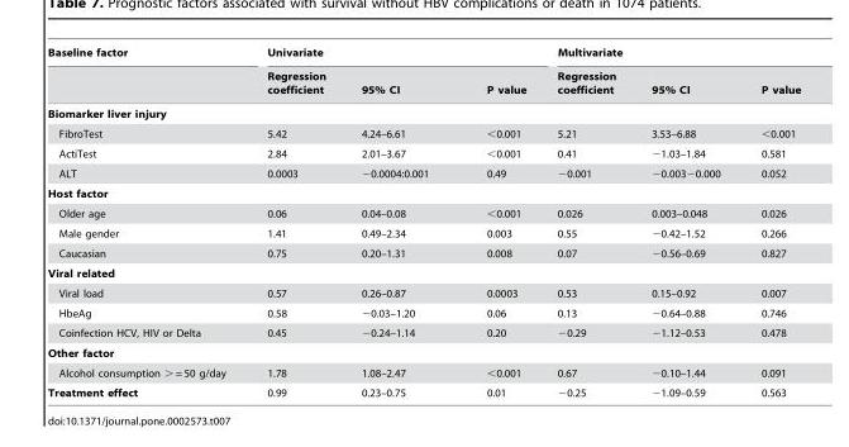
<table><thead><tr><td rowspan="2">Baseline factor</td><td colspan="3">Univariate</td><td colspan="3">Multivariate</td></tr><tr><td>Regression coefficient</td><td>95% CI</td><td>P value</td><td>Regression coefficient</td><td>95% CI</td><td>P value</td></tr></thead><tbody><tr><td colspan="7">Biomarker liver injury</td></tr><tr><td>FibroTest</td><td>5.42</td><td>4.24–6.61</td><td>&lt;0.001</td><td>5.21</td><td>3.53–6.88</td><td>&lt;0.001</td></tr><tr><td>ActiTest</td><td>2.84</td><td>2.01–3.67</td><td>&lt;0.001</td><td>0.41</td><td>−1.03–1.84</td><td>0.581</td></tr><tr><td>ALT</td><td>0.0003</td><td>−0.0004:0.001</td><td>0.49</td><td>−0.001</td><td>−0.003−0.000</td><td>0.052</td></tr><tr><td colspan="7">Host factor</td></tr><tr><td>Older age</td><td>0.06</td><td>0.04–0.08</td><td>&lt;0.001</td><td>0.026</td><td>0.003–0.048</td><td>0.026</td></tr><tr><td>Male gender</td><td>1.41</td><td>0.49–2.34</td><td>0.003</td><td>0.55</td><td>−0.42–1.52</td><td>0.266</td></tr><tr><td>Caucasian</td><td>0.75</td><td>0.20–1.31</td><td>0.008</td><td>0.07</td><td>−0.56–0.69</td><td>0.827</td></tr><tr><td colspan="7">Viral related</td></tr><tr><td>Viral load</td><td>0.57</td><td>0.26–0.87</td><td>0.0003</td><td>0.53</td><td>0.15–0.92</td><td>0.007</td></tr><tr><td>HbeAg</td><td>0.58</td><td>−0.03–1.20</td><td>0.06</td><td>0.13</td><td>−0.64–0.88</td><td>0.746</td></tr><tr><td>Coinfection HCV, HIV or Delta</td><td>0.45</td><td>−0.24–1.14</td><td>0.20</td><td>−0.29</td><td>−1.12–0.53</td><td>0.478</td></tr><tr><td colspan="7">Other factor</td></tr><tr><td>Alcohol consumption &gt; = 50 g/day</td><td>1.78</td><td>1.08–2.47</td><td>&lt;0.001</td><td>0.67</td><td>−0.10–1.44</td><td>0.091</td></tr><tr><td>Treatment effect</td><td>0.99</td><td>0.23–0.75</td><td>0.01</td><td>−0.25</td><td>−1.09–0.59</td><td>0.563</td></tr></tbody></table>